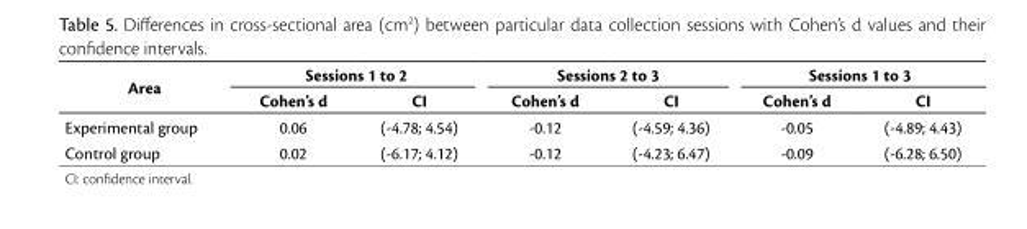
<table><thead><tr><td rowspan="2">Area</td><td colspan="2">Sessions 1 to 2</td><td colspan="2">Sessions 2 to 3</td><td colspan="2">Sessions 1 to 3</td></tr><tr><td>Cohen’s d</td><td>CI</td><td>Cohen’s d</td><td>CI</td><td>Cohen’s d</td><td>CI</td></tr></thead><tbody><tr><td>Experimental group</td><td>0.06</td><td>(-4.78; 4.54)</td><td>-0.12</td><td>(-4.59; 4.36)</td><td>-0.05</td><td>(-4.89; 4.43)</td></tr><tr><td>Control group</td><td>0.02</td><td>(-6.17; 4.12)</td><td>-0.12</td><td>(-4.23; 6.47)</td><td>-0.09</td><td>(-6.28; 6.50)</td></tr></tbody></table>